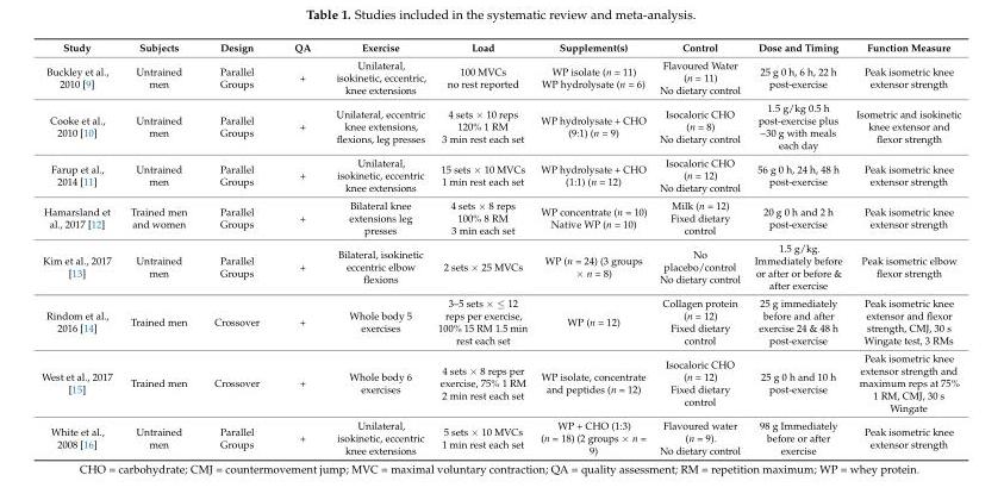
<table><thead><tr><td>Study</td><td>Subjects</td><td>Design</td><td>QA</td><td>Exercise</td><td>Load</td><td>Supplement(s)</td><td>Control</td><td>Dose and Timing</td><td>Function Measure</td></tr></thead><tbody><tr><td>Buckley et al., 2010 [9]</td><td>Untrained men</td><td>Parallel Groups</td><td>+</td><td>Unilateral, isokinetic, eccentric, knee extensions</td><td>100 MVCs no rest reported</td><td>WP isolate (n = 11) WP hydrolysate (n = 6)</td><td>Flavoured Water (n = 11) No dietary control</td><td>25 g 0 h, 6 h, 22 h post-exercise</td><td>Peak isometric knee extensor strength</td></tr><tr><td>Cooke et al., 2010 [10]</td><td>Untrained men</td><td>Parallel Groups</td><td>+</td><td>Unilateral, eccentric knee extensions, flexions, leg presses</td><td>4 sets × 10 reps 120% 1 RM 3 min rest each set</td><td>WP hydrolysate + CHO (9:1) (n = 9)</td><td>Isocaloric CHO (n = 8) No dietary control</td><td>1.5 g/kg 0.5 h post-exercise plus ~30 g with meals each day</td><td>Isometric and isokinetic knee extensor and flexor strength</td></tr><tr><td>Farup et al., 2014 [11]</td><td>Untrained men</td><td>Parallel Groups</td><td>+</td><td>Unilateral, isokinetic, eccentric knee extensions</td><td>15 sets × 10 MVCs 1 min rest each set</td><td>WP hydrolysate + CHO (1:1) (n = 12)</td><td>Isocaloric CHO (n = 12) No dietary control</td><td>56 g 0 h, 24 h, 48 h post-exercise</td><td>Peak isometric knee extensor strength</td></tr><tr><td>Hamarsland et al., 2017 [12]</td><td>Trained men and women</td><td>Parallel Groups</td><td>+</td><td>Bilateral knee extensions leg presses</td><td>4 sets × 8 reps 100% 8 RM 3 min each set</td><td>WP concentrate (n = 10) Native WP (n = 10)</td><td>Milk (n = 12) Fixed dietary control</td><td>20 g 0 h and 2 h post-exercise</td><td>Peak isometric knee extensor strength</td></tr><tr><td>Kim et al., 2017 [13]</td><td>Untrained men</td><td>Parallel Groups</td><td>+</td><td>Bilateral, isokinetic eccentric elbow flexions</td><td>2 sets × 25 MVCs</td><td>WP (n = 24) (3 groups × n = 8)</td><td>No placebo/control No dietary control</td><td>1.5 g/kg. Immediately before or after or before &amp; after exercise</td><td>Peak isometric elbow flexor strength</td></tr><tr><td>Rindom et al., 2016 [14]</td><td>Trained men</td><td>Crossover</td><td>+</td><td>Whole body 5 exercises</td><td>3–5 sets × ≤ 12 reps per exercise, 100% 15 RM 1.5 min rest each set</td><td>WP (n = 12)</td><td>Collagen protein (n = 12) Fixed dietary control</td><td>25 g immediately before and after exercise 24 &amp; 48 h post-exercise</td><td>Peak isometric knee extensor and flexor strength, CMJ, 30 s Wingate test, 3 RMs</td></tr><tr><td>West et al., 2017 [15]</td><td>Trained men</td><td>Crossover</td><td>+</td><td>Whole body 6 exercises</td><td>4 sets × 8 reps per exercise, 75% 1 RM 2 min rest each set</td><td>WP isolate, concentrate and peptides (n = 12)</td><td>Isocaloric CHO (n = 12) Fixed dietary control</td><td>25 g 0 h and 10 h post-exercise</td><td>Peak isometric knee extensor strength and maximum reps at 75% 1 RM, CMJ, 30 s Wingate</td></tr><tr><td>White et al., 2008 [16]</td><td>Untrained men</td><td>Parallel Groups</td><td>+</td><td>Unilateral, isokinetic, eccentric knee extensions</td><td>5 sets × 10 MVCs 1 min rest each set</td><td>WP + CHO (1:3) (n = 18) (2 groups × n = 9)</td><td>Flavoured water (n = 9). No dietary control</td><td>98 g Immediately before or after exercise</td><td>Peak isometric knee extensor strength</td></tr></tbody></table>